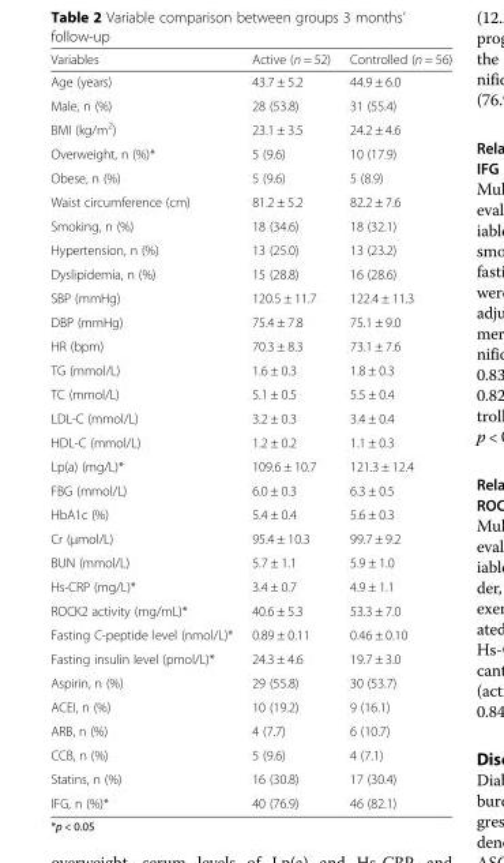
<table><thead><tr><td>Variables</td><td>Active (n = 52)</td><td>Controlled (n = 56)</td></tr></thead><tbody><tr><td>Age (years)</td><td>43.7 ± 5.2</td><td>44.9 ± 6.0</td></tr><tr><td>Male, n (%)</td><td>28 (53.8)</td><td>31 (55.4)</td></tr><tr><td>BMI (kg/m<sup>2</sup>)</td><td>23.1 ± 3.5</td><td>24.2 ± 4.6</td></tr><tr><td>Overweight, n (%)*</td><td>5 (9.6)</td><td>10 (17.9)</td></tr><tr><td>Obese, n (%)</td><td>5 (9.6)</td><td>5 (8.9)</td></tr><tr><td>Waist circumference (cm)</td><td>81.2 ± 5.2</td><td>82.2 ± 7.6</td></tr><tr><td>Smoking, n (%)</td><td>18 (34.6)</td><td>18 (32.1)</td></tr><tr><td>Hypertension, n (%)</td><td>13 (25.0)</td><td>13 (23.2)</td></tr><tr><td>Dyslipidemia, n (%)</td><td>15 (28.8)</td><td>16 (28.6)</td></tr><tr><td>SBP (mmHg)</td><td>120.5 ± 11.7</td><td>122.4 ± 11.3</td></tr><tr><td>DBP (mmHg)</td><td>75.4 ± 7.8</td><td>75.1 ± 9.0</td></tr><tr><td>HR (bpm)</td><td>70.3 ± 8.3</td><td>73.1 ± 7.6</td></tr><tr><td>TG (mmol/L)</td><td>1.6 ± 0.3</td><td>1.8 ± 0.3</td></tr><tr><td>TC (mmol/L)</td><td>5.1 ± 0.5</td><td>5.5 ± 0.4</td></tr><tr><td>LDL-C (mmol/L)</td><td>3.2 ± 0.3</td><td>3.4 ± 0.4</td></tr><tr><td>HDL-C (mmol/L)</td><td>1.2 ± 0.2</td><td>1.1 ± 0.3</td></tr><tr><td>Lp(a) (mg/L)*</td><td>109.6 ± 10.7</td><td>121.3 ± 12.4</td></tr><tr><td>FBG (mmol/L)</td><td>6.0 ± 0.3</td><td>6.3 ± 0.5</td></tr><tr><td>HbA1c (%)</td><td>5.4 ± 0.4</td><td>5.6 ± 0.3</td></tr><tr><td>Cr (μmol/L)</td><td>95.4 ± 10.3</td><td>99.7 ± 9.2</td></tr><tr><td>BUN (mmol/L)</td><td>5.7 ± 1.1</td><td>5.9 ± 1.0</td></tr><tr><td>Hs-CRP (mg/L)*</td><td>3.4 ± 0.7</td><td>4.9 ± 1.1</td></tr><tr><td>ROCK2 activity (mg/mL)*</td><td>40.6 ± 5.3</td><td>53.3 ± 7.0</td></tr><tr><td>Fasting C-peptide level (nmol/L)*</td><td>0.89 ± 0.11</td><td>0.46 ± 0.10</td></tr><tr><td>Fasting insulin level (pmol/L)*</td><td>24.3 ± 4.6</td><td>19.7 ± 3.0</td></tr><tr><td>Aspirin, n (%)</td><td>29 (55.8)</td><td>30 (53.7)</td></tr><tr><td>ACEI, n (%)</td><td>10 (19.2)</td><td>9 (16.1)</td></tr><tr><td>ARB, n (%)</td><td>4 (7.7)</td><td>6 (10.7)</td></tr><tr><td>CCB, n (%)</td><td>5 (9.6)</td><td>4 (7.1)</td></tr><tr><td>Statins, n (%)</td><td>16 (30.8)</td><td>17 (30.4)</td></tr><tr><td>IFG, n (%)*</td><td>40 (76.9)</td><td>46 (82.1)</td></tr></tbody></table>